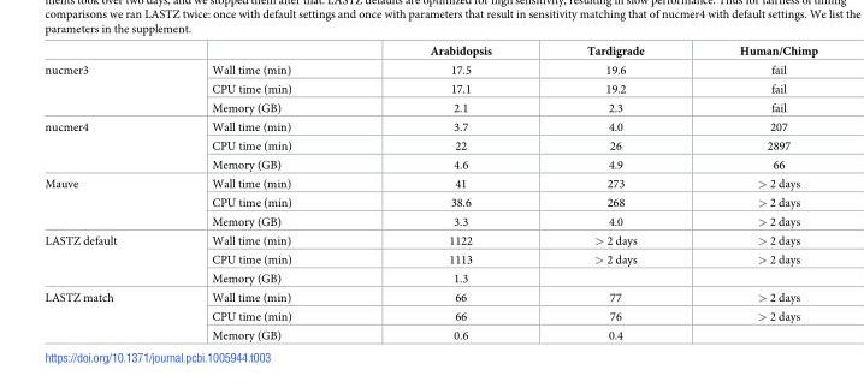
<table><thead><tr><td></td><td></td><td>Arabidopsis</td><td>Tardigrade</td><td>Human/Chimp</td></tr></thead><tbody><tr><td rowspan="3">nucmer3</td><td>Wall time (min)</td><td>17.5</td><td>19.6</td><td>fail</td></tr><tr><td>CPU time (min)</td><td>17.1</td><td>19.2</td><td>fail</td></tr><tr><td>Memory (GB)</td><td>2.1</td><td>2.3</td><td>fail</td></tr><tr><td rowspan="3">nucmer4</td><td>Wall time (min)</td><td>3.7</td><td>4.0</td><td>207</td></tr><tr><td>CPU time (min)</td><td>22</td><td>26</td><td>2897</td></tr><tr><td>Memory (GB)</td><td>4.6</td><td>4.9</td><td>66</td></tr><tr><td rowspan="3">Mauve</td><td>Wall time (min)</td><td>41</td><td>273</td><td>&gt; 2 days</td></tr><tr><td>CPU time (min)</td><td>38.6</td><td>268</td><td>&gt; 2 days</td></tr><tr><td>Memory (GB)</td><td>3.3</td><td>4.0</td><td>&gt; 2 days</td></tr><tr><td rowspan="3">LASTZ default</td><td>Wall time (min)</td><td>1122</td><td>&gt; 2 days</td><td>&gt; 2 days</td></tr><tr><td>CPU time (min)</td><td>1113</td><td>&gt; 2 days</td><td>&gt; 2 days</td></tr><tr><td>Memory (GB)</td><td>1.3</td><td></td><td></td></tr><tr><td rowspan="3">LASTZ match</td><td>Wall time (min)</td><td>66</td><td>77</td><td>&gt; 2 days</td></tr><tr><td>CPU time (min)</td><td>66</td><td>76</td><td>&gt; 2 days</td></tr><tr><td>Memory (GB)</td><td>0.6</td><td>0.4</td><td></td></tr></tbody></table>